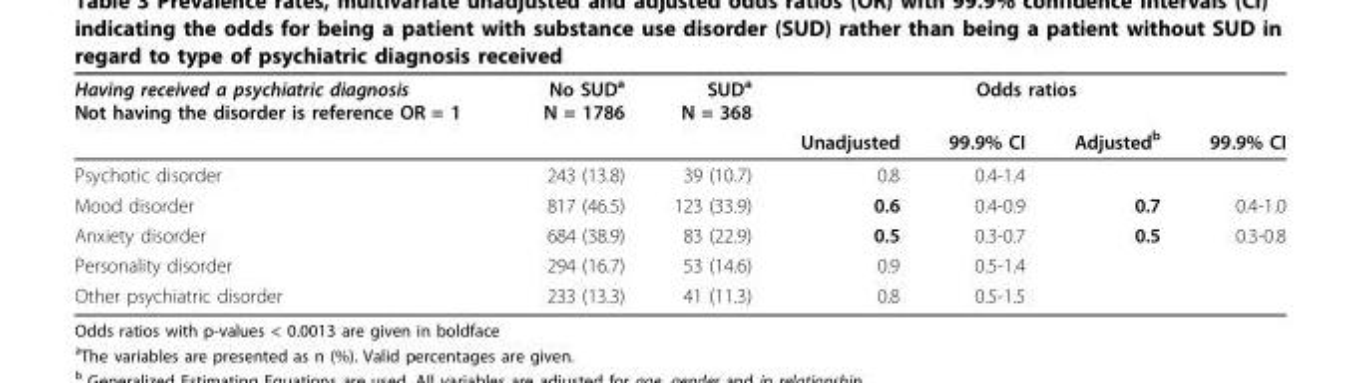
<table><thead><tr><td rowspan="2">Having received a psychiatric diagnosis Not having the disorder is reference OR = 1</td><td rowspan="2">No SUD<sup>a</sup> N = 1786</td><td rowspan="2">SUD<sup>a</sup> N = 368</td><td colspan="4">Odds ratios</td></tr><tr><td>Unadjusted</td><td>99.9% CI</td><td>Adjusted<sup>b</sup></td><td>99.9% CI</td></tr></thead><tbody><tr><td>Psychotic disorder</td><td>243 (13.8)</td><td>39 (10.7)</td><td>0.8</td><td>0.4-1.4</td><td></td><td></td></tr><tr><td>Mood disorder</td><td>817 (46.5)</td><td>123 (33.9)</td><td>0.6</td><td>0.4-0.9</td><td>0.7</td><td>0.4-1.0</td></tr><tr><td>Anxiety disorder</td><td>684 (38.9)</td><td>83 (22.9)</td><td>0.5</td><td>0.3-0.7</td><td>0.5</td><td>0.3-0.8</td></tr><tr><td>Personality disorder</td><td>294 (16.7)</td><td>53 (14.6)</td><td>0.9</td><td>0.5-1.4</td><td></td><td></td></tr><tr><td>Other psychiatric disorder</td><td>233 (13.3)</td><td>41 (11.3)</td><td>0.8</td><td>0.5-1.5</td><td></td><td></td></tr></tbody></table>